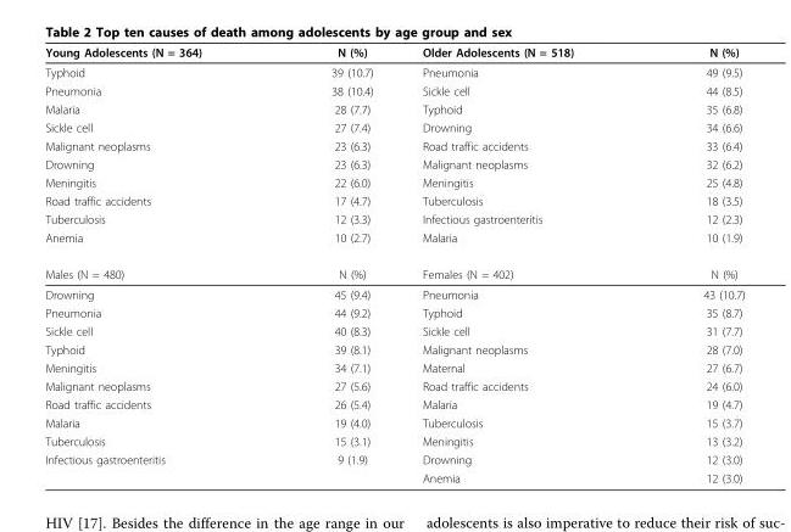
<table><thead><tr><td>Young Adolescents (N = 364)</td><td>N (%)</td><td>Older Adolescents (N = 518)</td><td>N (%)</td></tr></thead><tbody><tr><td>Typhoid</td><td>39 (10.7)</td><td>Pneumonia</td><td>49 (9.5)</td></tr><tr><td>Pneumonia</td><td>38 (10.4)</td><td>Sickle cell</td><td>44 (8.5)</td></tr><tr><td>Malaria</td><td>28 (7.7)</td><td>Typhoid</td><td>35 (6.8)</td></tr><tr><td>Sickle cell</td><td>27 (7.4)</td><td>Drowning</td><td>34 (6.6)</td></tr><tr><td>Malignant neoplasms</td><td>23 (6.3)</td><td>Road traffic accidents</td><td>33 (6.4)</td></tr><tr><td>Drowning</td><td>23 (6.3)</td><td>Malignant neoplasms</td><td>32 (6.2)</td></tr><tr><td>Meningitis</td><td>22 (6.0)</td><td>Meningitis</td><td>25 (4.8)</td></tr><tr><td>Road traffic accidents</td><td>17 (4.7)</td><td>Tuberculosis</td><td>18 (3.5)</td></tr><tr><td>Tuberculosis</td><td>12 (3.3)</td><td>Infectious gastroenteritis</td><td>12 (2.3)</td></tr><tr><td>Anemia</td><td>10 (2.7)</td><td>Malaria</td><td>10 (1.9)</td></tr><tr><td>Males (N = 480)</td><td>N (%)</td><td>Females (N = 402)</td><td>N (%)</td></tr><tr><td>Drowning</td><td>45 (9.4)</td><td>Pneumonia</td><td>43 (10.7)</td></tr><tr><td>Pneumonia</td><td>44 (9.2)</td><td>Typhoid</td><td>35 (8.7)</td></tr><tr><td>Sickle cell</td><td>40 (8.3)</td><td>Sickle cell</td><td>31 (7.7)</td></tr><tr><td>Typhoid</td><td>39 (8.1)</td><td>Malignant neoplasms</td><td>28 (7.0)</td></tr><tr><td>Meningitis</td><td>34 (7.1)</td><td>Maternal</td><td>27 (6.7)</td></tr><tr><td>Malignant neoplasms</td><td>27 (5.6)</td><td>Road traffic accidents</td><td>24 (6.0)</td></tr><tr><td>Road traffic accidents</td><td>26 (5.4)</td><td>Malaria</td><td>19 (4.7)</td></tr><tr><td>Malaria</td><td>19 (4.0)</td><td>Tuberculosis</td><td>15 (3.7)</td></tr><tr><td>Tuberculosis</td><td>15 (3.1)</td><td>Meningitis</td><td>13 (3.2)</td></tr><tr><td rowspan="2">Infectious gastroenteritis</td><td>9 (1.9)</td><td>Drowning</td><td>12 (3.0)</td></tr><tr><td></td><td>Anemia</td><td>12 (3.0)</td></tr></tbody></table>